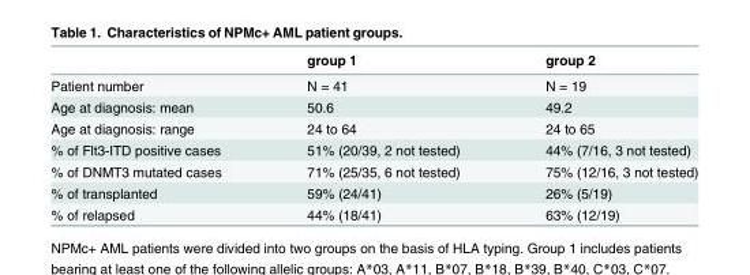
<table><thead><tr><td></td><td>group 1</td><td>group 2</td></tr></thead><tbody><tr><td>Patient number</td><td>N = 41</td><td>N = 19</td></tr><tr><td>Age at diagnosis: mean</td><td>50.6</td><td>49.2</td></tr><tr><td>Age at diagnosis: range</td><td>24 to 64</td><td>24 to 65</td></tr><tr><td>% of Flt3-ITD positive cases</td><td>51% (20/39, 2 not tested)</td><td>44% (7/16, 3 not tested)</td></tr><tr><td>% of DNMT3 mutated cases</td><td>71% (25/35, 6 not tested)</td><td>75% (12/16, 3 not tested)</td></tr><tr><td>% of transplanted</td><td>59% (24/41)</td><td>26% (5/19)</td></tr><tr><td>% of relapsed</td><td>44% (18/41)</td><td>63% (12/19)</td></tr></tbody></table>